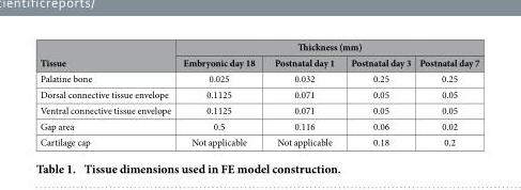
<table><thead><tr><td rowspan="2">Tissue</td><td colspan="4">Thickness (mm)</td></tr><tr><td>Embryonic day 18</td><td>Postnatal day 1</td><td>Postnatal day 3</td><td>Postnatal day 7</td></tr></thead><tbody><tr><td>Palatine bone</td><td>0.025</td><td>0.032</td><td>0.25</td><td>0.25</td></tr><tr><td>Dorsal connective tissue envelope</td><td>0.1125</td><td>0.071</td><td>0.05</td><td>0.05</td></tr><tr><td>Ventral connective tissue envelope</td><td>0.1125</td><td>0.071</td><td>0.05</td><td>0.05</td></tr><tr><td>Gap area</td><td>0.5</td><td>0.116</td><td>0.06</td><td>0.02</td></tr><tr><td>Cartilage cap</td><td>Not applicable</td><td>Not applicable</td><td>0.18</td><td>0.2</td></tr></tbody></table>